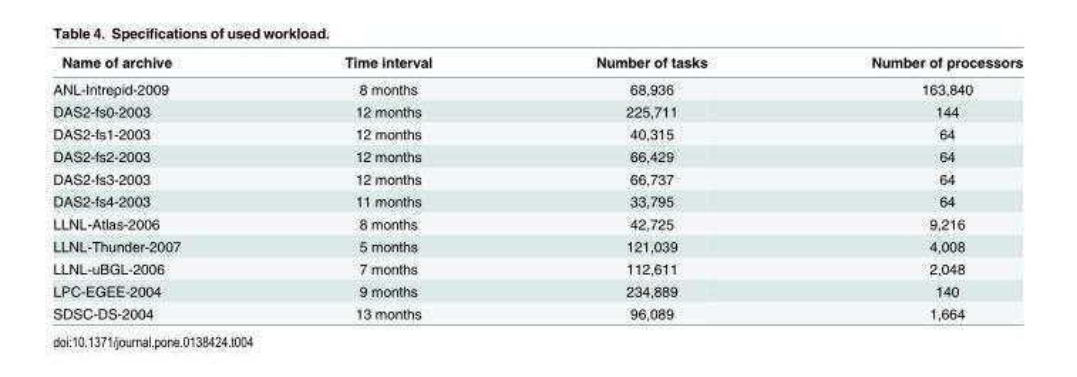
<table><thead><tr><td>Name of archive</td><td>Time interval</td><td>Number of tasks</td><td>Number of processors</td></tr></thead><tbody><tr><td>ANL-Intrepid-2009</td><td>8 months</td><td>68,936</td><td>163,840</td></tr><tr><td>DAS2-fs0-2003</td><td>12 months</td><td>225,711</td><td>144</td></tr><tr><td>DAS2-fs1-2003</td><td>12 months</td><td>40,315</td><td>64</td></tr><tr><td>DAS2-fs2-2003</td><td>12 months</td><td>66,429</td><td>64</td></tr><tr><td>DAS2-fs3-2003</td><td>12 months</td><td>66,737</td><td>64</td></tr><tr><td>DAS2-fs4-2003</td><td>11 months</td><td>33,795</td><td>64</td></tr><tr><td>LLNL-Atlas-2006</td><td>8 months</td><td>42,725</td><td>9,216</td></tr><tr><td>LLNL-Thunder-2007</td><td>5 months</td><td>121,039</td><td>4,008</td></tr><tr><td>LLNL-uBGL-2006</td><td>7 months</td><td>112,611</td><td>2,048</td></tr><tr><td>LPC-EGEE-2004</td><td>9 months</td><td>234,889</td><td>140</td></tr><tr><td>SDSC-DS-2004</td><td>13 months</td><td>96,089</td><td>1,664</td></tr></tbody></table>